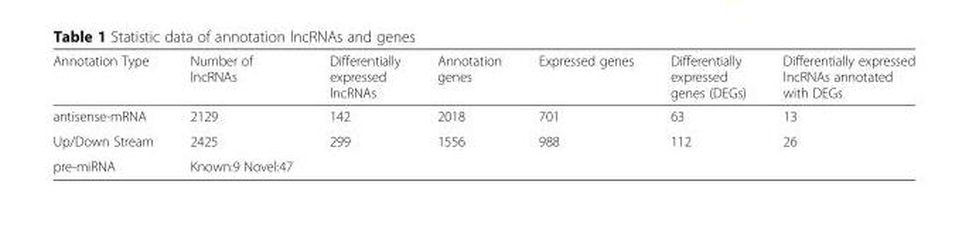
<table><thead><tr><td>Annotation Type</td><td>Number of lncRNAs</td><td>Differentially expressed lncRNAs</td><td>Annotation genes</td><td>Expressed genes</td><td>Differentially expressed genes (DEGs)</td><td>Differentially expressed lncRNAs annotated with DEGs</td></tr></thead><tbody><tr><td>antisense-mRNA</td><td>2129</td><td>142</td><td>2018</td><td>701</td><td>63</td><td>13</td></tr><tr><td>Up/Down Stream</td><td>2425</td><td>299</td><td>1556</td><td>988</td><td>112</td><td>26</td></tr><tr><td>pre-miRNA</td><td>Known:9 Novel:47</td><td></td><td></td><td></td><td></td><td></td></tr></tbody></table>